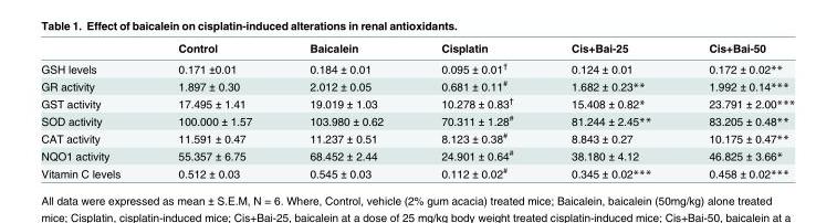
<table><thead><tr><td></td><td>Control</td><td>Baicalein</td><td>Cisplatin</td><td>Cis+Bai-25</td><td>Cis+Bai-50</td></tr></thead><tbody><tr><td>GSH levels</td><td>0.171 ±0.01</td><td>0.184 ± 0.01</td><td>0.095 ± 0.01<sup>†</sup></td><td>0.124 ± 0.01</td><td>0.172 ± 0.02**</td></tr><tr><td>GR activity</td><td>1.897 ± 0.30</td><td>2.012 ± 0.05</td><td>0.681 ± 0.11<sup>#</sup></td><td>1.682 ± 0.23**</td><td>1.992 ± 0.14***</td></tr><tr><td>GST activity</td><td>17.495 ± 1.41</td><td>19.019 ± 1.03</td><td>10.278 ± 0.83<sup>†</sup></td><td>15.408 ± 0.82*</td><td>23.791 ± 2.00***</td></tr><tr><td>SOD activity</td><td>100.000 ± 1.57</td><td>103.980 ± 0.62</td><td>70.311 ± 1.28<sup>#</sup></td><td>81.244 ± 2.45**</td><td>83.205 ± 0.48**</td></tr><tr><td>CAT activity</td><td>11.591 ± 0.47</td><td>11.237 ± 0.51</td><td>8.123 ± 0.38<sup>#</sup></td><td>8.843 ± 0.27</td><td>10.175 ± 0.47**</td></tr><tr><td>NQO1 activity</td><td>55.357 ± 6.75</td><td>68.452 ± 2.44</td><td>24.901 ± 0.64<sup>#</sup></td><td>38.180 ± 4.12</td><td>46.825 ± 3.66*</td></tr><tr><td>Vitamin C levels</td><td>0.512 ± 0.03</td><td>0.545 ± 0.03</td><td>0.112 ± 0.02<sup>#</sup></td><td>0.345 ± 0.02***</td><td>0.458 ± 0.02***</td></tr></tbody></table>